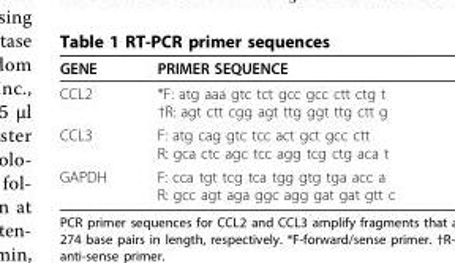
<table><thead><tr><td>GENE</td><td>PRIMER SEQUENCE</td></tr></thead><tbody><tr><td>CCL2</td><td>*F: atg aaa gtc tct gcc gcc ctt ctg t †R: agt ctt cgg agt ttg ggt ttg ctt g</td></tr><tr><td>CCL3</td><td>F: atg cag gtc tcc act gct gcc ctt R: gca ctc agc tcc agg tcg ctg aca t</td></tr><tr><td>GAPDH</td><td>F: cca tgt tcg tca tgg gtg tga acc a R: gcc agt aga ggc agg gat gat gtt c</td></tr></tbody></table>